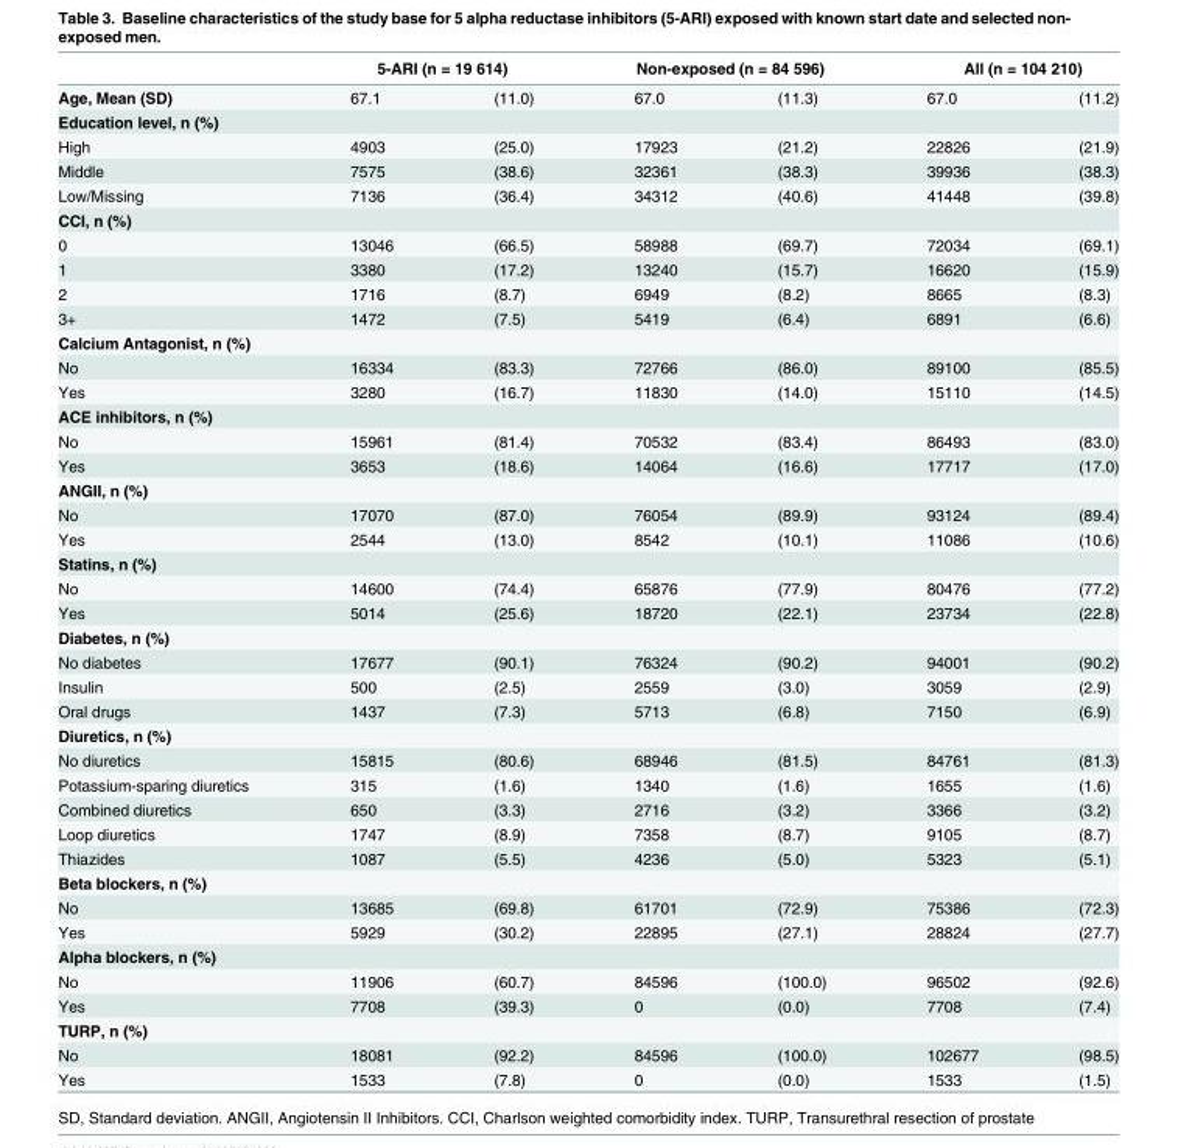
<table><thead><tr><td rowspan="2">Age, Mean (SD)</td><td colspan="2">5-ARI (n = 19 614)</td><td colspan="2">Non-exposed (n = 84 596)</td><td colspan="2">All (n = 104 210)</td></tr><tr><td>67.1</td><td>(11.0)</td><td>67.0</td><td>(11.3)</td><td>67.0</td><td>(11.2)</td></tr></thead><tbody><tr><td colspan="7">Education level, n (%)</td></tr><tr><td>High</td><td>4903</td><td>(25.0)</td><td>17923</td><td>(21.2)</td><td>22826</td><td>(21.9)</td></tr><tr><td>Middle</td><td>7575</td><td>(38.6)</td><td>32361</td><td>(38.3)</td><td>39936</td><td>(38.3)</td></tr><tr><td>Low/Missing</td><td>7136</td><td>(36.4)</td><td>34312</td><td>(40.6)</td><td>41448</td><td>(39.8)</td></tr><tr><td colspan="7">CCI, n (%)</td></tr><tr><td>0</td><td>13046</td><td>(66.5)</td><td>58988</td><td>(69.7)</td><td>72034</td><td>(69.1)</td></tr><tr><td>1</td><td>3380</td><td>(17.2)</td><td>13240</td><td>(15.7)</td><td>16620</td><td>(15.9)</td></tr><tr><td>2</td><td>1716</td><td>(8.7)</td><td>6949</td><td>(8.2)</td><td>8665</td><td>(8.3)</td></tr><tr><td>3+</td><td>1472</td><td>(7.5)</td><td>5419</td><td>(6.4)</td><td>6891</td><td>(6.6)</td></tr><tr><td colspan="7">Calcium Antagonist, n (%)</td></tr><tr><td>No</td><td>16334</td><td>(83.3)</td><td>72766</td><td>(86.0)</td><td>89100</td><td>(85.5)</td></tr><tr><td>Yes</td><td>3280</td><td>(16.7)</td><td>11830</td><td>(14.0)</td><td>15110</td><td>(14.5)</td></tr><tr><td colspan="7">ACE inhibitors, n (%)</td></tr><tr><td>No</td><td>15961</td><td>(81.4)</td><td>70532</td><td>(83.4)</td><td>86493</td><td>(83.0)</td></tr><tr><td>Yes</td><td>3653</td><td>(18.6)</td><td>14064</td><td>(16.6)</td><td>17717</td><td>(17.0)</td></tr><tr><td colspan="7">ANGII, n (%)</td></tr><tr><td>No</td><td>17070</td><td>(87.0)</td><td>76054</td><td>(89.9)</td><td>93124</td><td>(89.4)</td></tr><tr><td>Yes</td><td>2544</td><td>(13.0)</td><td>8542</td><td>(10.1)</td><td>11086</td><td>(10.6)</td></tr><tr><td colspan="7">Statins, n (%)</td></tr><tr><td>No</td><td>14600</td><td>(74.4)</td><td>65876</td><td>(77.9)</td><td>80476</td><td>(77.2)</td></tr><tr><td>Yes</td><td>5014</td><td>(25.6)</td><td>18720</td><td>(22.1)</td><td>23734</td><td>(22.8)</td></tr><tr><td colspan="7">Diabetes, n (%)</td></tr><tr><td>No diabetes</td><td>17677</td><td>(90.1)</td><td>76324</td><td>(90.2)</td><td>94001</td><td>(90.2)</td></tr><tr><td>Insulin</td><td>500</td><td>(2.5)</td><td>2559</td><td>(3.0)</td><td>3059</td><td>(2.9)</td></tr><tr><td>Oral drugs</td><td>1437</td><td>(7.3)</td><td>5713</td><td>(6.8)</td><td>7150</td><td>(6.9)</td></tr><tr><td colspan="7">Diuretics, n (%)</td></tr><tr><td>No diuretics</td><td>15815</td><td>(80.6)</td><td>68946</td><td>(81.5)</td><td>84761</td><td>(81.3)</td></tr><tr><td>Potassium-sparing diuretics</td><td>315</td><td>(1.6)</td><td>1340</td><td>(1.6)</td><td>1655</td><td>(1.6)</td></tr><tr><td>Combined diuretics</td><td>650</td><td>(3.3)</td><td>2716</td><td>(3.2)</td><td>3366</td><td>(3.2)</td></tr><tr><td>Loop diuretics</td><td>1747</td><td>(8.9)</td><td>7358</td><td>(8.7)</td><td>9105</td><td>(8.7)</td></tr><tr><td>Thiazides</td><td>1087</td><td>(5.5)</td><td>4236</td><td>(5.0)</td><td>5323</td><td>(5.1)</td></tr><tr><td colspan="7">Beta blockers, n (%)</td></tr><tr><td>No</td><td>13685</td><td>(69.8)</td><td>61701</td><td>(72.9)</td><td>75386</td><td>(72.3)</td></tr><tr><td>Yes</td><td>5929</td><td>(30.2)</td><td>22895</td><td>(27.1)</td><td>28824</td><td>(27.7)</td></tr><tr><td colspan="7">Alpha blockers, n (%)</td></tr><tr><td>No</td><td>11906</td><td>(60.7)</td><td>84596</td><td>(100.0)</td><td>96502</td><td>(92.6)</td></tr><tr><td>Yes</td><td>7708</td><td>(39.3)</td><td>0</td><td>(0.0)</td><td>7708</td><td>(7.4)</td></tr><tr><td colspan="7">TURP, n (%)</td></tr><tr><td>No</td><td>18081</td><td>(92.2)</td><td>84596</td><td>(100.0)</td><td>102677</td><td>(98.5)</td></tr><tr><td>Yes</td><td>1533</td><td>(7.8)</td><td>0</td><td>(0.0)</td><td>1533</td><td>(1.5)</td></tr></tbody></table>